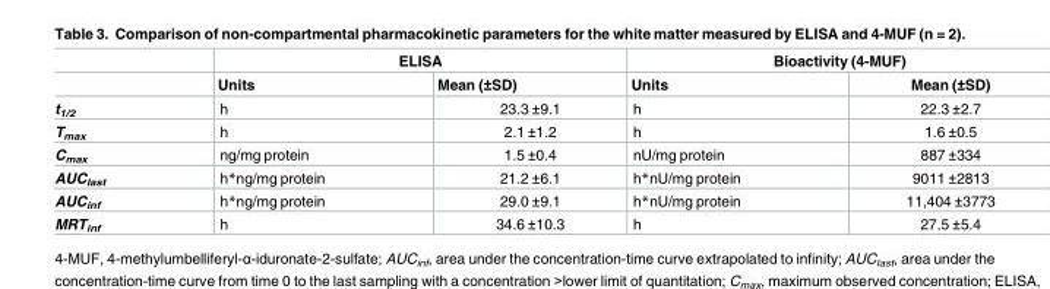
<table><thead><tr><td rowspan="2"></td><td colspan="2">ELISA</td><td colspan="2">Bioactivity (4-MUF)</td></tr><tr><td>Units</td><td>Mean (±SD)</td><td>Units</td><td>Mean (±SD)</td></tr></thead><tbody><tr><td>t<sub>1/2</sub></td><td>h</td><td>23.3 ±9.1</td><td>h</td><td>22.3 ±2.7</td></tr><tr><td>T<sub>max</sub></td><td>h</td><td>2.1 ±1.2</td><td>h</td><td>1.6 ±0.5</td></tr><tr><td>C<sub>max</sub></td><td>ng/mg protein</td><td>1.5 ±0.4</td><td>nU/mg protein</td><td>887 ±334</td></tr><tr><td>AUC<sub>last</sub></td><td>h*ng/mg protein</td><td>21.2 ±6.1</td><td>h*nU/mg protein</td><td>9011 ±2813</td></tr><tr><td>AUC<sub>inf</sub></td><td>h*ng/mg protein</td><td>29.0 ±9.1</td><td>h*nU/mg protein</td><td>11,404 ±3773</td></tr><tr><td>MRT<sub>inf</sub></td><td>h</td><td>34.6 ±10.3</td><td>h</td><td>27.5 ±5.4</td></tr></tbody></table>